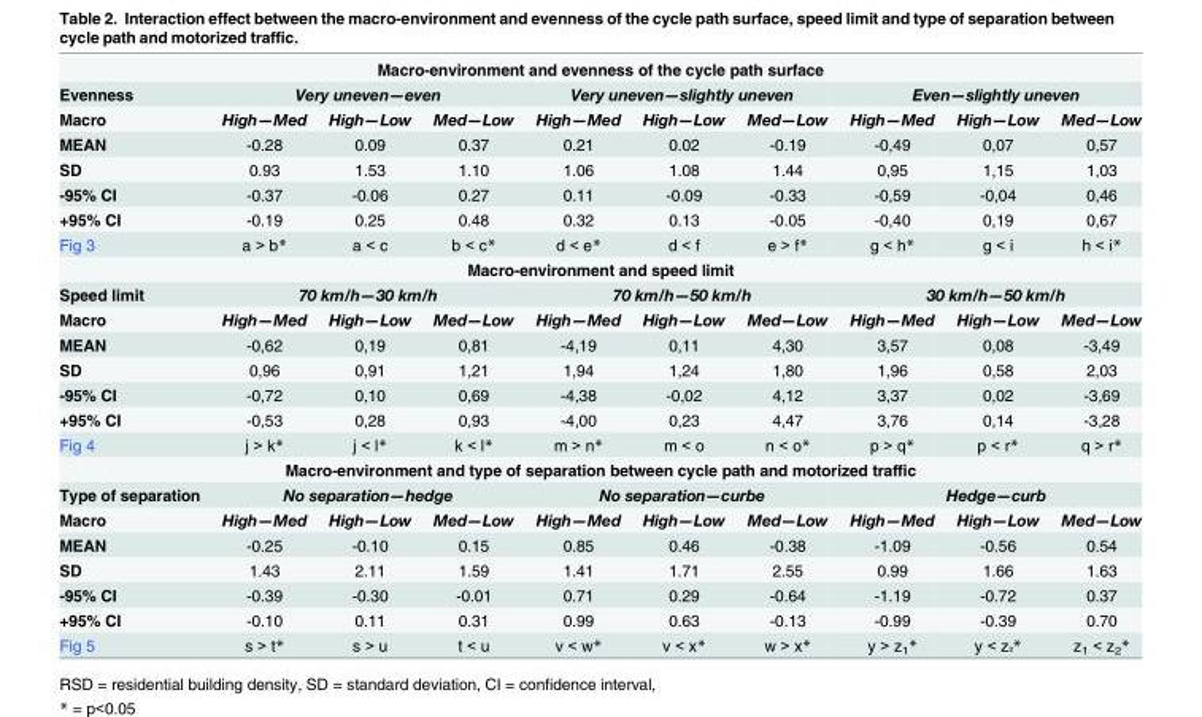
<table><tbody><tr><td colspan="10">Macro-environment and evenness of the cycle path surface</td></tr><tr><td>Evenness</td><td colspan="3">Very uneven—even</td><td colspan="3">Very uneven—slightly uneven</td><td colspan="3">Even—slightly uneven</td></tr><tr><td>Macro</td><td>High—Med</td><td>High—Low</td><td>Med—Low</td><td>High—Med</td><td>High—Low</td><td>Med—Low</td><td>High—Med</td><td>High—Low</td><td>Med—Low</td></tr><tr><td>MEAN</td><td>-0.28</td><td>0.09</td><td>0.37</td><td>0.21</td><td>0.02</td><td>-0.19</td><td>-0,49</td><td>0,07</td><td>0,57</td></tr><tr><td>SD</td><td>0.93</td><td>1.53</td><td>1.10</td><td>1.06</td><td>1.08</td><td>1.44</td><td>0,95</td><td>1,15</td><td>1,03</td></tr><tr><td>-95% CI</td><td>-0.37</td><td>-0.06</td><td>0.27</td><td>0.11</td><td>-0.09</td><td>-0.33</td><td>-0,59</td><td>-0,04</td><td>0,46</td></tr><tr><td>+95% CI</td><td>-0.19</td><td>0.25</td><td>0.48</td><td>0.32</td><td>0.13</td><td>-0.05</td><td>-0,40</td><td>0,19</td><td>0,67</td></tr><tr><td>Fig 3</td><td>a &gt; b*</td><td>a &lt; c</td><td>b &lt; c*</td><td>d &lt; e*</td><td>d &lt; f</td><td>e &gt; f*</td><td>g &lt; h*</td><td>g &lt; i</td><td>h &lt; i*</td></tr><tr><td colspan="10">Macro-environment and speed limit</td></tr><tr><td>Speed limit</td><td colspan="3">70 km/h—30 km/h</td><td colspan="3">70 km/h—50 km/h</td><td colspan="3">30 km/h—50 km/h</td></tr><tr><td>Macro</td><td>High—Med</td><td>High—Low</td><td>Med—Low</td><td>High—Med</td><td>High—Low</td><td>Med—Low</td><td>High—Med</td><td>High—Low</td><td>Med—Low</td></tr><tr><td>MEAN</td><td>-0,62</td><td>0,19</td><td>0,81</td><td>-4,19</td><td>0,11</td><td>4,30</td><td>3,57</td><td>0,08</td><td>-3,49</td></tr><tr><td>SD</td><td>0,96</td><td>0,91</td><td>1,21</td><td>1,94</td><td>1,24</td><td>1,80</td><td>1,96</td><td>0,58</td><td>2,03</td></tr><tr><td>-95% CI</td><td>-0,72</td><td>0,10</td><td>0,69</td><td>-4,38</td><td>-0,02</td><td>4,12</td><td>3,37</td><td>0,02</td><td>-3,69</td></tr><tr><td>+95% CI</td><td>-0,53</td><td>0,28</td><td>0,93</td><td>-4,00</td><td>0,23</td><td>4,47</td><td>3,76</td><td>0,14</td><td>-3,28</td></tr><tr><td>Fig 4</td><td>j &gt; k*</td><td>j &lt; l*</td><td>k &lt; l*</td><td>m &gt; n*</td><td>m &lt; o</td><td>n &lt; o*</td><td>p &gt; q*</td><td>p &lt; r*</td><td>q &gt; r*</td></tr><tr><td colspan="10">Macro-environment and type of separation between cycle path and motorized traffic</td></tr><tr><td>Type of separation</td><td colspan="3">No separation—hedge</td><td colspan="3">No separation—curbe</td><td colspan="3">Hedge—curb</td></tr><tr><td>Macro</td><td>High—Med</td><td>High—Low</td><td>Med—Low</td><td>High—Med</td><td>High—Low</td><td>Med—Low</td><td>High—Med</td><td>High—Low</td><td>Med—Low</td></tr><tr><td>MEAN</td><td>-0.25</td><td>-0.10</td><td>0.15</td><td>0.85</td><td>0.46</td><td>-0.38</td><td>-1.09</td><td>-0.56</td><td>0.54</td></tr><tr><td>SD</td><td>1.43</td><td>2.11</td><td>1.59</td><td>1.41</td><td>1.71</td><td>2.55</td><td>0.99</td><td>1.66</td><td>1.63</td></tr><tr><td>-95% CI</td><td>-0.39</td><td>-0.30</td><td>-0.01</td><td>0.71</td><td>0.29</td><td>-0.64</td><td>-1.19</td><td>-0.72</td><td>0.37</td></tr><tr><td>+95% CI</td><td>-0.10</td><td>0.11</td><td>0.31</td><td>0.99</td><td>0.63</td><td>-0.13</td><td>-0.99</td><td>-0.39</td><td>0.70</td></tr><tr><td>Fig 5</td><td>s &gt; t*</td><td>s &gt; u</td><td>t &lt; u</td><td>v &lt; w*</td><td>v &lt; x*</td><td>w &gt; x*</td><td>y &gt; z<sub>1</sub>*</td><td>y &lt; z<sub>²</sub>*</td><td>z<sub>1</sub> &lt; z<sub>2</sub>*</td></tr></tbody></table>